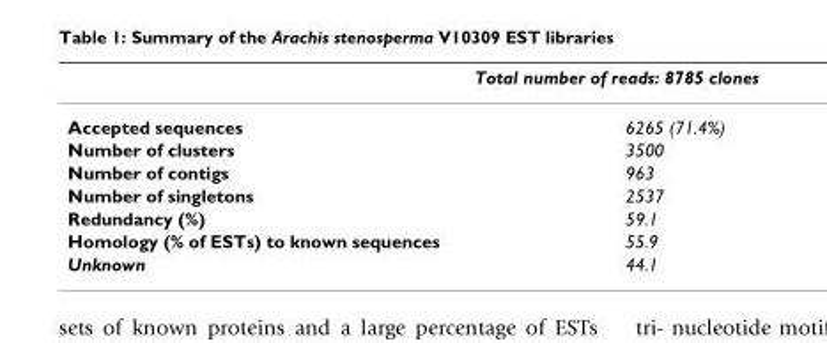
<table><thead><tr><td colspan="2">Total number of reads: 8785 clones</td></tr><tr><td>Accepted sequences</td><td>6265 (71.4%)</td></tr></thead><tbody><tr><td>Number of clusters</td><td>3500</td></tr><tr><td>Number of contigs</td><td>963</td></tr><tr><td>Number of singletons</td><td>2537</td></tr><tr><td>Redundancy (%)</td><td>59.1</td></tr><tr><td>Homology (% of ESTs) to known sequences</td><td>55.9</td></tr><tr><td>Unknown</td><td>44.1</td></tr></tbody></table>